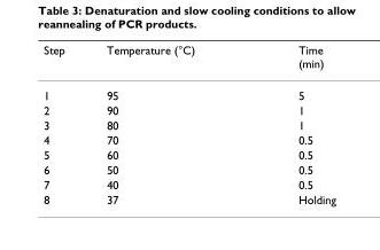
<table><thead><tr><td>Step</td><td>Temperature (°C)</td><td>Time (min)</td></tr></thead><tbody><tr><td>1</td><td>95</td><td>5</td></tr><tr><td>2</td><td>90</td><td>1</td></tr><tr><td>3</td><td>80</td><td>1</td></tr><tr><td>4</td><td>70</td><td>0.5</td></tr><tr><td>5</td><td>60</td><td>0.5</td></tr><tr><td>6</td><td>50</td><td>0.5</td></tr><tr><td>7</td><td>40</td><td>0.5</td></tr><tr><td>8</td><td>37</td><td>Holding</td></tr></tbody></table>